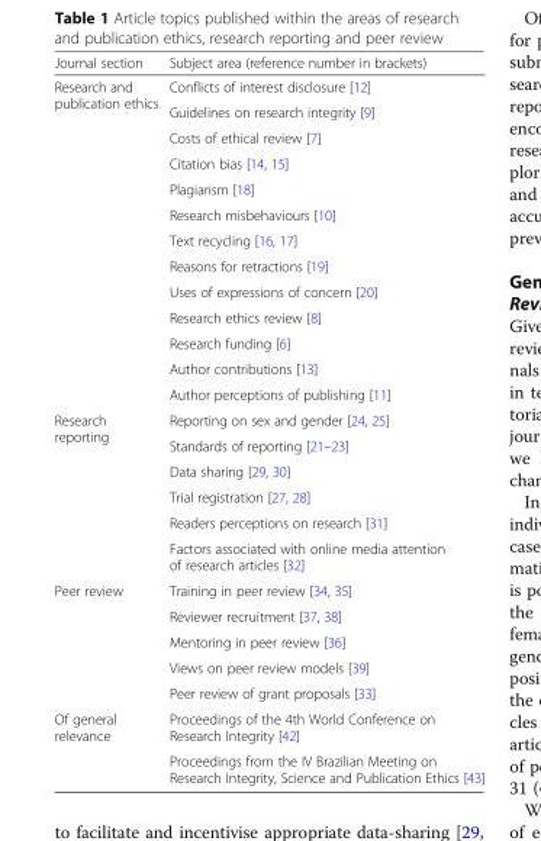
<table><thead><tr><td>Journal section</td><td>Subject area (reference number in brackets)</td></tr></thead><tbody><tr><td rowspan="13">Research and publication ethics</td><td>Conflicts of interest disclosure [12]</td></tr><tr><td>Guidelines on research integrity [9]</td></tr><tr><td>Costs of ethical review [7]</td></tr><tr><td>Citation bias [14, 15]</td></tr><tr><td>Plagiarism [18]</td></tr><tr><td>Research misbehaviours [10]</td></tr><tr><td>Text recycling [16, 17]</td></tr><tr><td>Reasons for retractions [19]</td></tr><tr><td>Uses of expressions of concern [20]</td></tr><tr><td>Research ethics review [8]</td></tr><tr><td>Research funding [6]</td></tr><tr><td>Author contributions [13]</td></tr><tr><td>Author perceptions of publishing [11]</td></tr><tr><td rowspan="6">Research reporting</td><td>Reporting on sex and gender [24, 25]</td></tr><tr><td>Standards of reporting [21–23]</td></tr><tr><td>Data sharing [29, 30]</td></tr><tr><td>Trial registration [27, 28]</td></tr><tr><td>Readers perceptions on research [31]</td></tr><tr><td>Factors associated with online media attention of research articles [32]</td></tr><tr><td rowspan="5">Peer review</td><td>Training in peer review [34, 35]</td></tr><tr><td>Reviewer recruitment [37, 38]</td></tr><tr><td>Mentoring in peer review [36]</td></tr><tr><td>Views on peer review models [39]</td></tr><tr><td>Peer review of grant proposals [33]</td></tr><tr><td rowspan="2">Of general relevance</td><td>Proceedings of the 4th World Conference on Research Integrity [42]</td></tr><tr><td>Proceedings from the IV Brazilian Meeting on Research Integrity, Science and Publication Ethics [43]</td></tr></tbody></table>